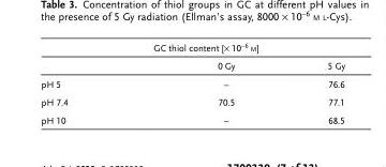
<table><thead><tr><td colspan="3">GC thiol content [× 10<sup>−6</sup> m]</td></tr><tr><td></td><td>0 Gy</td><td>5 Gy</td></tr></thead><tbody><tr><td>pH 5</td><td>–</td><td>76.6</td></tr><tr><td>pH 7.4</td><td>70.5</td><td>77.1</td></tr><tr><td>pH 10</td><td>–</td><td>68.5</td></tr></tbody></table>